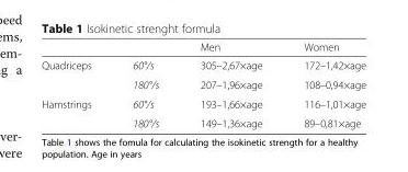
<table><thead><tr><td></td><td></td><td>Men</td><td>Women</td></tr></thead><tbody><tr><td rowspan="2">Quadriceps</td><td>60°/s</td><td>305–2,67×age</td><td>172–1,42×age</td></tr><tr><td>180°/s</td><td>207–1,96×age</td><td>108–0,94×age</td></tr><tr><td rowspan="2">Hamstrings</td><td>60°/s</td><td>193–1,66×age</td><td>116–1,01×age</td></tr><tr><td>180°/s</td><td>149–1,36×age</td><td>89–0,81×age</td></tr></tbody></table>